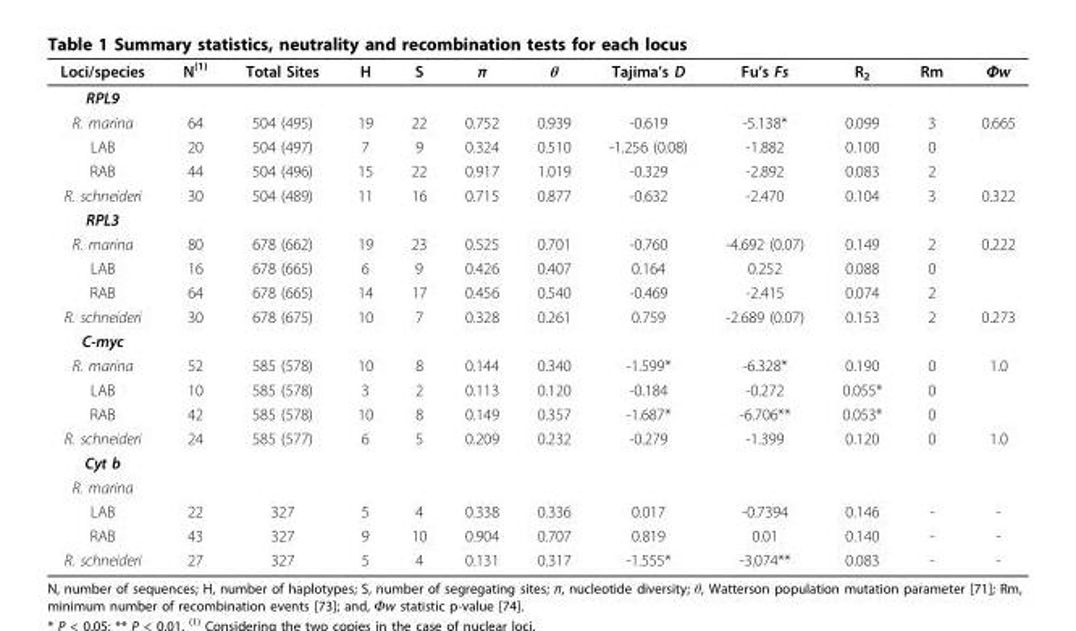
<table><thead><tr><td>Loci/species</td><td>N<sup>(1)</sup></td><td>Total Sites</td><td>H</td><td>S</td><td>π</td><td>θ</td><td>Tajima’s D</td><td>Fu’s Fs</td><td>R<sub>2</sub></td><td>Rm</td><td>Φw</td></tr></thead><tbody><tr><td colspan="12">RPL9</td></tr><tr><td>R. marina</td><td>64</td><td>504 (495)</td><td>19</td><td>22</td><td>0.752</td><td>0.939</td><td>-0.619</td><td>-5.138*</td><td>0.099</td><td>3</td><td>0.665</td></tr><tr><td>LAB</td><td>20</td><td>504 (497)</td><td>7</td><td>9</td><td>0.324</td><td>0.510</td><td>-1.256 (0.08)</td><td>-1.882</td><td>0.100</td><td>0</td><td></td></tr><tr><td>RAB</td><td>44</td><td>504 (496)</td><td>15</td><td>22</td><td>0.917</td><td>1.019</td><td>-0.329</td><td>-2.892</td><td>0.083</td><td>2</td><td></td></tr><tr><td>R. schneideri</td><td>30</td><td>504 (489)</td><td>11</td><td>16</td><td>0.715</td><td>0.877</td><td>-0.632</td><td>-2.470</td><td>0.104</td><td>3</td><td>0.322</td></tr><tr><td colspan="12">RPL3</td></tr><tr><td>R. marina</td><td>80</td><td>678 (662)</td><td>19</td><td>23</td><td>0.525</td><td>0.701</td><td>-0.760</td><td>-4.692 (0.07)</td><td>0.149</td><td>2</td><td>0.222</td></tr><tr><td>LAB</td><td>16</td><td>678 (665)</td><td>6</td><td>9</td><td>0.426</td><td>0.407</td><td>0.164</td><td>0.252</td><td>0.088</td><td>0</td><td></td></tr><tr><td>RAB</td><td>64</td><td>678 (665)</td><td>14</td><td>17</td><td>0.456</td><td>0.540</td><td>-0.469</td><td>-2.415</td><td>0.074</td><td>2</td><td></td></tr><tr><td>R. schneideri</td><td>30</td><td>678 (675)</td><td>10</td><td>7</td><td>0.328</td><td>0.261</td><td>0.759</td><td>-2.689 (0.07)</td><td>0.153</td><td>2</td><td>0.273</td></tr><tr><td colspan="12">C-myc</td></tr><tr><td>R. marina</td><td>52</td><td>585 (578)</td><td>10</td><td>8</td><td>0.144</td><td>0.340</td><td>-1.599*</td><td>-6.328*</td><td>0.190</td><td>0</td><td>1.0</td></tr><tr><td>LAB</td><td>10</td><td>585 (578)</td><td>3</td><td>2</td><td>0.113</td><td>0.120</td><td>-0.184</td><td>-0.272</td><td>0.055*</td><td>0</td><td></td></tr><tr><td>RAB</td><td>42</td><td>585 (578)</td><td>10</td><td>8</td><td>0.149</td><td>0.357</td><td>-1.687*</td><td>-6.706**</td><td>0.053*</td><td>0</td><td></td></tr><tr><td>R. schneideri</td><td>24</td><td>585 (577)</td><td>6</td><td>5</td><td>0.209</td><td>0.232</td><td>-0.279</td><td>-1.399</td><td>0.120</td><td>0</td><td>1.0</td></tr><tr><td colspan="12">Cyt b</td></tr><tr><td colspan="12">R. marina</td></tr><tr><td>LAB</td><td>22</td><td>327</td><td>5</td><td>4</td><td>0.338</td><td>0.336</td><td>0.017</td><td>-0.7394</td><td>0.146</td><td>-</td><td>-</td></tr><tr><td>RAB</td><td>43</td><td>327</td><td>9</td><td>10</td><td>0.904</td><td>0.707</td><td>0.819</td><td>0.01</td><td>0.140</td><td>-</td><td>-</td></tr><tr><td>R. schneideri</td><td>27</td><td>327</td><td>5</td><td>4</td><td>0.131</td><td>0.317</td><td>-1.555*</td><td>-3.074**</td><td>0.083</td><td>-</td><td>-</td></tr></tbody></table>